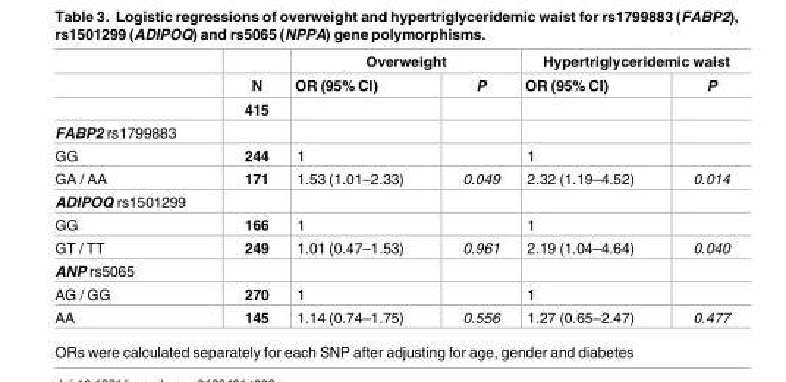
<table><thead><tr><td rowspan="2"></td><td rowspan="2">N</td><td colspan="2">Overweight</td><td colspan="2">Hypertriglyceridemic waist</td></tr><tr><td>OR (95% CI)</td><td>P</td><td>OR (95% CI)</td><td>P</td></tr></thead><tbody><tr><td></td><td>415</td><td></td><td></td><td></td><td></td></tr><tr><td colspan="6">FABP2 rs1799883</td></tr><tr><td>GG</td><td>244</td><td>1</td><td></td><td>1</td><td></td></tr><tr><td>GA / AA</td><td>171</td><td>1.53 (1.01–2.33)</td><td>0.049</td><td>2.32 (1.19–4.52)</td><td>0.014</td></tr><tr><td colspan="6">ADIPOQ rs1501299</td></tr><tr><td>GG</td><td>166</td><td>1</td><td></td><td>1</td><td></td></tr><tr><td>GT / TT</td><td>249</td><td>1.01 (0.47–1.53)</td><td>0.961</td><td>2.19 (1.04–4.64)</td><td>0.040</td></tr><tr><td colspan="6">ANP rs5065</td></tr><tr><td>AG / GG</td><td>270</td><td>1</td><td></td><td>1</td><td></td></tr><tr><td>AA</td><td>145</td><td>1.14 (0.74–1.75)</td><td>0.556</td><td>1.27 (0.65–2.47)</td><td>0.477</td></tr></tbody></table>